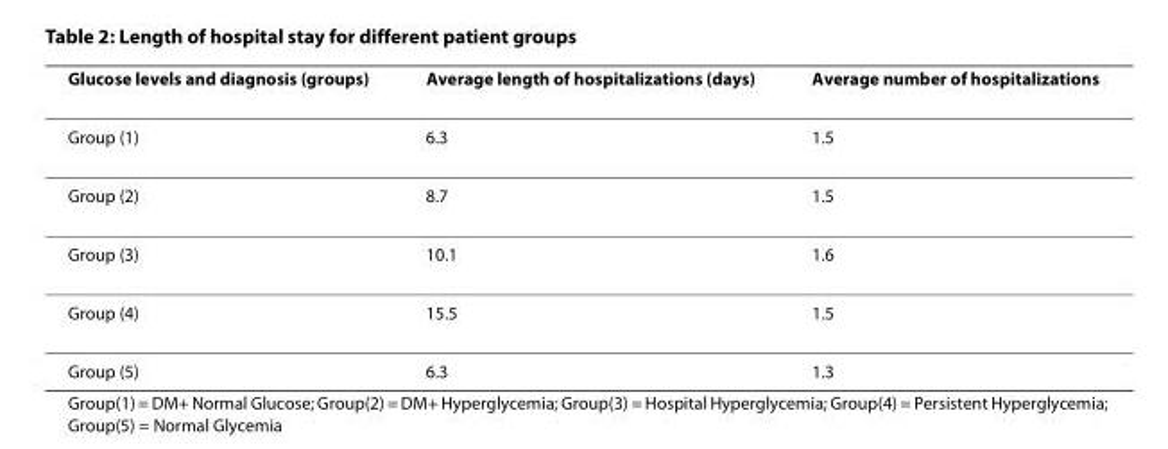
<table><thead><tr><td>Glucose levels and diagnosis (groups)</td><td>Average length of hospitalizations (days)</td><td>Average number of hospitalizations</td></tr></thead><tbody><tr><td>Group (1)</td><td>6.3</td><td>1.5</td></tr><tr><td>Group (2)</td><td>8.7</td><td>1.5</td></tr><tr><td>Group (3)</td><td>10.1</td><td>1.6</td></tr><tr><td>Group (4)</td><td>15.5</td><td>1.5</td></tr><tr><td>Group (5)</td><td>6.3</td><td>1.3</td></tr></tbody></table>